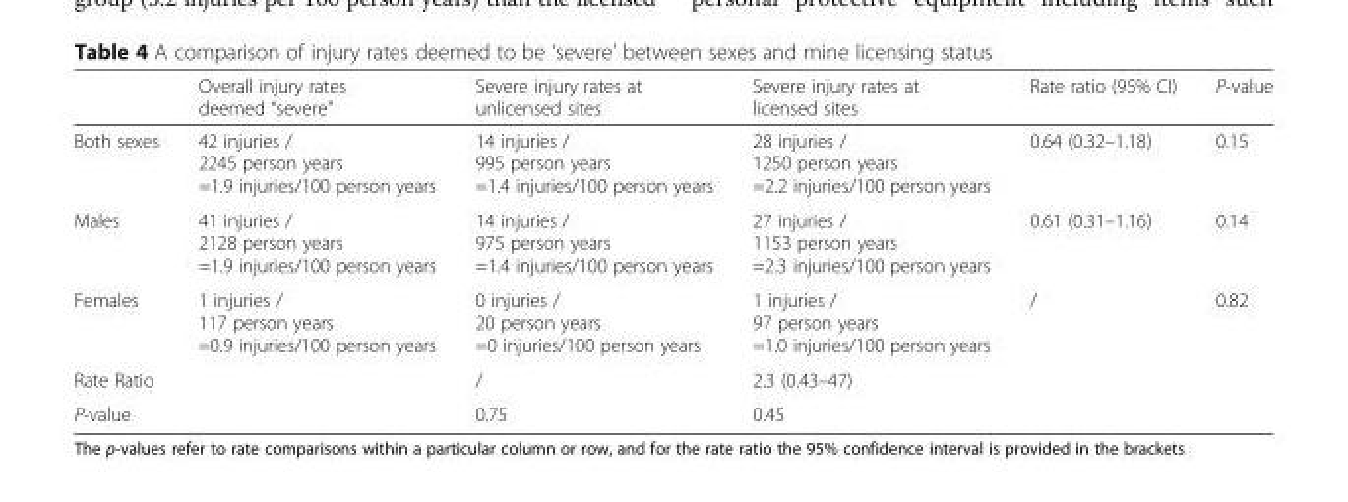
<table><thead><tr><td></td><td>Overall injury rates deemed “severe”</td><td>Severe injury rates at unlicensed sites</td><td>Severe injury rates at licensed sites</td><td>Rate ratio (95% CI)</td><td>P-value</td></tr></thead><tbody><tr><td>Both sexes</td><td>42 injuries / 2245 person years =1.9 injuries/100 person years</td><td>14 injuries / 995 person years =1.4 injuries/100 person years</td><td>28 injuries / 1250 person years =2.2 injuries/100 person years</td><td>0.64 (0.32–1.18)</td><td>0.15</td></tr><tr><td>Males</td><td>41 injuries / 2128 person years =1.9 injuries/100 person years</td><td>14 injuries / 975 person years =1.4 injuries/100 person years</td><td>27 injuries / 1153 person years =2.3 injuries/100 person years</td><td>0.61 (0.31–1.16)</td><td>0.14</td></tr><tr><td>Females</td><td>1 injuries / 117 person years =0.9 injuries/100 person years</td><td>0 injuries / 20 person years =0 injuries/100 person years</td><td>1 injuries / 97 person years =1.0 injuries/100 person years</td><td>/</td><td>0.82</td></tr><tr><td>Rate Ratio</td><td></td><td>/</td><td>2.3 (0.43–47)</td><td></td><td></td></tr><tr><td>P-value</td><td></td><td>0.75</td><td>0.45</td><td></td><td></td></tr></tbody></table>